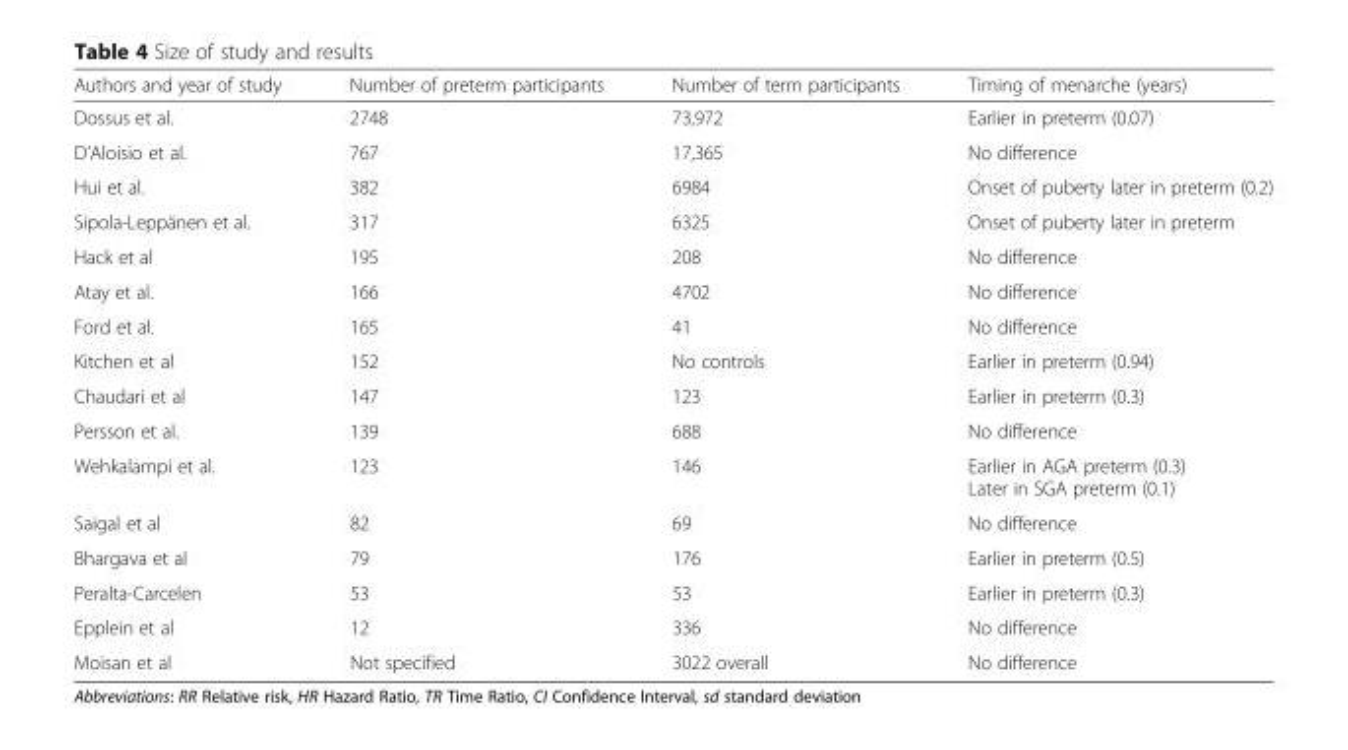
<table><thead><tr><td>Authors and year of study</td><td>Number of preterm participants</td><td>Number of term participants</td><td>Timing of menarche (years)</td></tr></thead><tbody><tr><td>Dossus et al.</td><td>2748</td><td>73,972</td><td>Earlier in preterm (0.07)</td></tr><tr><td>D’Aloisio et al.</td><td>767</td><td>17,365</td><td>No difference</td></tr><tr><td>Hui et al.</td><td>382</td><td>6984</td><td>Onset of puberty later in preterm (0.2)</td></tr><tr><td>Sipola-Leppänen et al.</td><td>317</td><td>6325</td><td>Onset of puberty later in preterm</td></tr><tr><td>Hack et al</td><td>195</td><td>208</td><td>No difference</td></tr><tr><td>Atay et al.</td><td>166</td><td>4702</td><td>No difference</td></tr><tr><td>Ford et al.</td><td>165</td><td>41</td><td>No difference</td></tr><tr><td>Kitchen et al</td><td>152</td><td>No controls</td><td>Earlier in preterm (0.94)</td></tr><tr><td>Chaudari et al</td><td>147</td><td>123</td><td>Earlier in preterm (0.3)</td></tr><tr><td>Persson et al.</td><td>139</td><td>688</td><td>No difference</td></tr><tr><td>Wehkalampi et al.</td><td>123</td><td>146</td><td>Earlier in AGA preterm (0.3) Later in SGA preterm (0.1)</td></tr><tr><td>Saigal et al</td><td>82</td><td>69</td><td>No difference</td></tr><tr><td>Bhargava et al</td><td>79</td><td>176</td><td>Earlier in preterm (0.5)</td></tr><tr><td>Peralta-Carcelen</td><td>53</td><td>53</td><td>Earlier in preterm (0.3)</td></tr><tr><td>Epplein et al</td><td>12</td><td>336</td><td>No difference</td></tr><tr><td>Moisan et al</td><td>Not specified</td><td>3022 overall</td><td>No difference</td></tr></tbody></table>